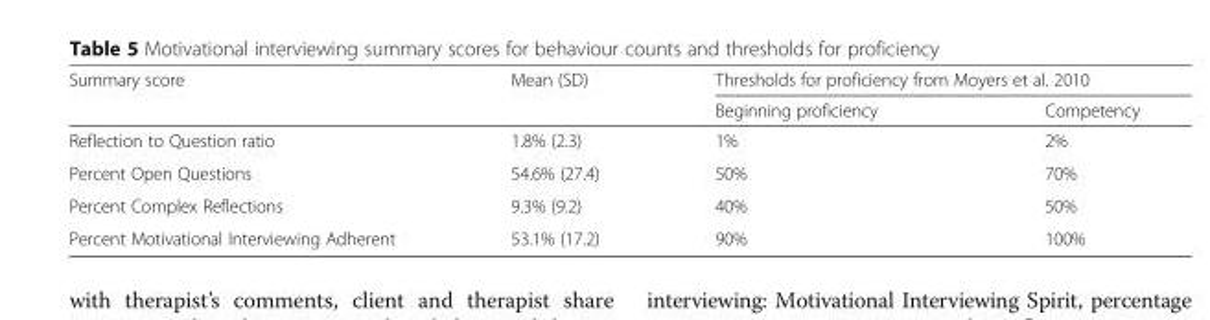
<table><thead><tr><td rowspan="2">Summary score</td><td rowspan="2">Mean (SD)</td><td colspan="2">Thresholds for proficiency from Moyers et al. 2010</td></tr><tr><td>Beginning proficiency</td><td>Competency</td></tr></thead><tbody><tr><td>Reflection to Question ratio</td><td>1.8% (2.3)</td><td>1%</td><td>2%</td></tr><tr><td>Percent Open Questions</td><td>54.6% (27.4)</td><td>50%</td><td>70%</td></tr><tr><td>Percent Complex Reflections</td><td>9.3% (9.2)</td><td>40%</td><td>50%</td></tr><tr><td>Percent Motivational Interviewing Adherent</td><td>53.1% (17.2)</td><td>90%</td><td>100%</td></tr></tbody></table>